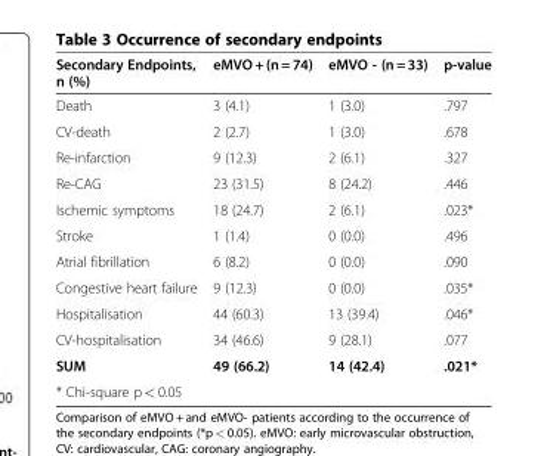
<table><thead><tr><td>Secondary Endpoints, n (%)</td><td>eMVO + (n = 74)</td><td>eMVO - (n = 33)</td><td>p-value</td></tr></thead><tbody><tr><td>Death</td><td>3 (4.1)</td><td>1 (3.0)</td><td>.797</td></tr><tr><td>CV-death</td><td>2 (2.7)</td><td>1 (3.0)</td><td>.678</td></tr><tr><td>Re-infarction</td><td>9 (12.3)</td><td>2 (6.1)</td><td>.327</td></tr><tr><td>Re-CAG</td><td>23 (31.5)</td><td>8 (24.2)</td><td>.446</td></tr><tr><td>Ischemic symptoms</td><td>18 (24.7)</td><td>2 (6.1)</td><td>.023*</td></tr><tr><td>Stroke</td><td>1 (1.4)</td><td>0 (0.0)</td><td>.496</td></tr><tr><td>Atrial fibrillation</td><td>6 (8.2)</td><td>0 (0.0)</td><td>.090</td></tr><tr><td>Congestive heart failure</td><td>9 (12.3)</td><td>0 (0.0)</td><td>.035*</td></tr><tr><td>Hospitalisation</td><td>44 (60.3)</td><td>13 (39.4)</td><td>.046*</td></tr><tr><td>CV-hospitalisation</td><td>34 (46.6)</td><td>9 (28.1)</td><td>.077</td></tr><tr><td>SUM</td><td>49 (66.2)</td><td>14 (42.4)</td><td>.021*</td></tr><tr><td>* Chi-square p &lt; 0.05</td><td></td><td></td><td></td></tr></tbody></table>